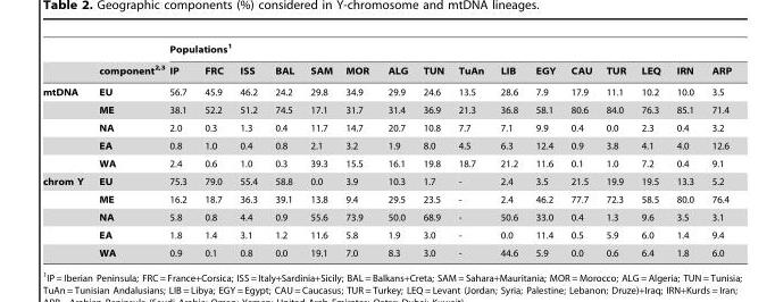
<table><thead><tr><td rowspan="2"></td><td rowspan="2">component<sup>2,</sup>3</td><td colspan="16">Populations<sup>1</sup></td></tr><tr><td>IP</td><td>FRC</td><td>ISS</td><td>BAL</td><td>SAM</td><td>MOR</td><td>ALG</td><td>TUN</td><td>TuAn</td><td>LIB</td><td>EGY</td><td>CAU</td><td>TUR</td><td>LEQ</td><td>IRN</td><td>ARP</td></tr></thead><tbody><tr><td rowspan="5">mtDNA</td><td>EU</td><td>56.7</td><td>45.9</td><td>46.2</td><td>24.2</td><td>29.8</td><td>34.9</td><td>29.9</td><td>24.6</td><td>13.5</td><td>28.6</td><td>7.9</td><td>17.9</td><td>11.1</td><td>10.2</td><td>10.0</td><td>3.5</td></tr><tr><td>ME</td><td>38.1</td><td>52.2</td><td>51.2</td><td>74.5</td><td>17.1</td><td>31.7</td><td>31.4</td><td>36.9</td><td>21.3</td><td>36.8</td><td>58.1</td><td>80.6</td><td>84.0</td><td>76.3</td><td>85.1</td><td>71.4</td></tr><tr><td>NA</td><td>2.0</td><td>0.3</td><td>1.3</td><td>0.4</td><td>11.7</td><td>14.7</td><td>20.7</td><td>10.8</td><td>7.7</td><td>7.1</td><td>9.9</td><td>0.4</td><td>0.0</td><td>2.3</td><td>0.4</td><td>3.2</td></tr><tr><td>EA</td><td>0.8</td><td>1.0</td><td>0.4</td><td>0.8</td><td>2.1</td><td>3.2</td><td>1.9</td><td>8.0</td><td>4.5</td><td>6.3</td><td>12.4</td><td>0.9</td><td>3.8</td><td>4.1</td><td>4.0</td><td>12.6</td></tr><tr><td>WA</td><td>2.4</td><td>0.6</td><td>1.0</td><td>0.3</td><td>39.3</td><td>15.5</td><td>16.1</td><td>19.8</td><td>18.7</td><td>21.2</td><td>11.6</td><td>0.1</td><td>1.0</td><td>7.2</td><td>0.4</td><td>9.1</td></tr><tr><td rowspan="5">chrom Y</td><td>EU</td><td>75.3</td><td>79.0</td><td>55.4</td><td>58.8</td><td>0.0</td><td>3.9</td><td>10.3</td><td>1.7</td><td>-</td><td>2.4</td><td>3.5</td><td>21.5</td><td>19.9</td><td>19.5</td><td>13.3</td><td>5.2</td></tr><tr><td>ME</td><td>16.2</td><td>18.7</td><td>36.3</td><td>39.1</td><td>13.8</td><td>9.4</td><td>29.5</td><td>23.5</td><td>-</td><td>2.4</td><td>46.2</td><td>77.7</td><td>72.3</td><td>58.5</td><td>80.0</td><td>76.4</td></tr><tr><td>NA</td><td>5.8</td><td>0.8</td><td>4.4</td><td>0.9</td><td>55.6</td><td>73.9</td><td>50.0</td><td>68.9</td><td>-</td><td>50.6</td><td>33.0</td><td>0.4</td><td>1.3</td><td>9.6</td><td>3.5</td><td>3.1</td></tr><tr><td>EA</td><td>1.8</td><td>1.4</td><td>3.1</td><td>1.2</td><td>11.6</td><td>5.8</td><td>1.9</td><td>3.0</td><td>-</td><td>0.0</td><td>11.4</td><td>0.5</td><td>5.9</td><td>6.0</td><td>1.4</td><td>9.4</td></tr><tr><td>WA</td><td>0.9</td><td>0.1</td><td>0.8</td><td>0.0</td><td>19.1</td><td>7.0</td><td>8.3</td><td>3.0</td><td>-</td><td>44.6</td><td>5.9</td><td>0.0</td><td>0.6</td><td>6.4</td><td>1.8</td><td>6.0</td></tr></tbody></table>